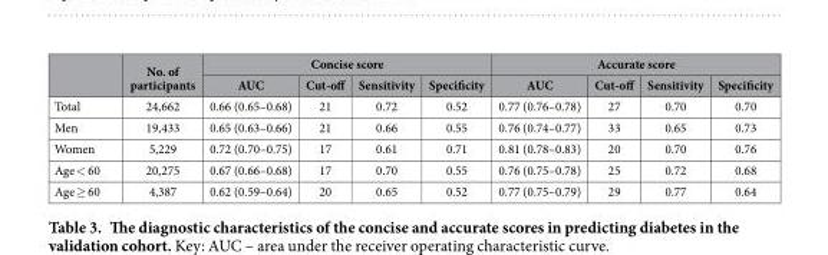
<table><thead><tr><td rowspan="2"></td><td rowspan="2">No. of participants</td><td colspan="4">Concise score</td><td colspan="4">Accurate score</td></tr><tr><td>AUC</td><td>Cut-off</td><td>Sensitivity</td><td>Specificity</td><td>AUC</td><td>Cut-off</td><td>Sensitivity</td><td>Specificity</td></tr></thead><tbody><tr><td>Total</td><td>24,662</td><td>0.66 (0.65–0.68)</td><td>21</td><td>0.72</td><td>0.52</td><td>0.77 (0.76–0.78)</td><td>27</td><td>0.70</td><td>0.70</td></tr><tr><td>Men</td><td>19,433</td><td>0.65 (0.63–0.66)</td><td>21</td><td>0.66</td><td>0.55</td><td>0.76 (0.74–0.77)</td><td>33</td><td>0.65</td><td>0.73</td></tr><tr><td>Women</td><td>5,229</td><td>0.72 (0.70–0.75)</td><td>17</td><td>0.61</td><td>0.71</td><td>0.81 (0.78–0.83)</td><td>20</td><td>0.70</td><td>0.76</td></tr><tr><td>Age &lt; 60</td><td>20,275</td><td>0.67 (0.66–0.68)</td><td>17</td><td>0.70</td><td>0.55</td><td>0.76 (0.75–0.78)</td><td>25</td><td>0.72</td><td>0.68</td></tr><tr><td>Age ≥ 60</td><td>4,387</td><td>0.62 (0.59–0.64)</td><td>20</td><td>0.65</td><td>0.52</td><td>0.77 (0.75–0.79)</td><td>29</td><td>0.77</td><td>0.64</td></tr></tbody></table>